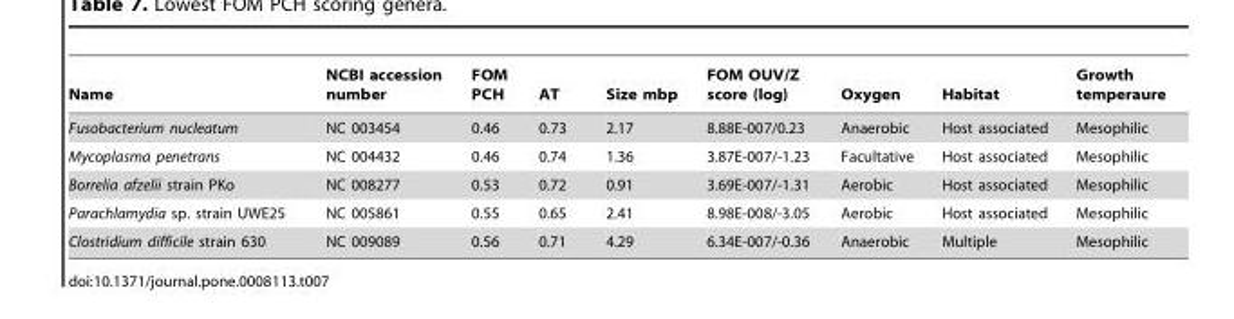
<table><thead><tr><td>Name</td><td>NCBI accession number</td><td>FOM PCH</td><td>AT</td><td>Size mbp</td><td>FOM OUV/Z score (log)</td><td>Oxygen</td><td>Habitat</td><td>Growth temperaure</td></tr></thead><tbody><tr><td>Fusobacterium nucleatum</td><td>NC 003454</td><td>0.46</td><td>0.73</td><td>2.17</td><td>8.88E-007/0.23</td><td>Anaerobic</td><td>Host associated</td><td>Mesophilic</td></tr><tr><td>Mycoplasma penetrans</td><td>NC 004432</td><td>0.46</td><td>0.74</td><td>1.36</td><td>3.87E-007/-1.23</td><td>Facultative</td><td>Host associated</td><td>Mesophilic</td></tr><tr><td>Borrelia afzelii strain PKo</td><td>NC 008277</td><td>0.53</td><td>0.72</td><td>0.91</td><td>3.69E-007/-1.31</td><td>Aerobic</td><td>Host associated</td><td>Mesophilic</td></tr><tr><td>Parachlamydia sp. strain UWE25</td><td>NC 005861</td><td>0.55</td><td>0.65</td><td>2.41</td><td>8.98E-008/-3.05</td><td>Aerobic</td><td>Host associated</td><td>Mesophilic</td></tr><tr><td>Clostridium difficile strain 630</td><td>NC 009089</td><td>0.56</td><td>0.71</td><td>4.29</td><td>6.34E-007/-0.36</td><td>Anaerobic</td><td>Multiple</td><td>Mesophilic</td></tr></tbody></table>